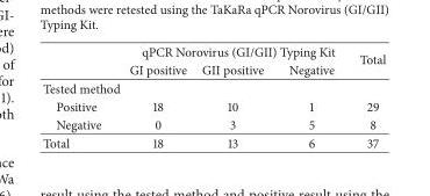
<table><thead><tr><td rowspan="2"></td><td colspan="3">qPCR Norovirus (GI/GII) Typing Kit</td><td rowspan="2">Total</td></tr><tr><td>GI positive</td><td>GII positive</td><td>Negative</td></tr></thead><tbody><tr><td colspan="5">Tested method</td></tr><tr><td>Positive</td><td>18</td><td>10</td><td>1</td><td>29</td></tr><tr><td>Negative</td><td>0</td><td>3</td><td>5</td><td>8</td></tr><tr><td>Total</td><td>18</td><td>13</td><td>6</td><td>37</td></tr></tbody></table>